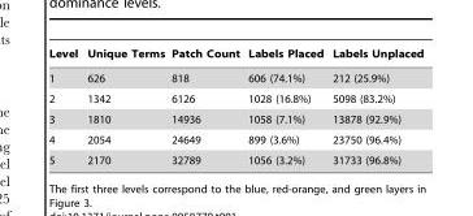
<table><thead><tr><td>Level</td><td>Unique Terms</td><td>Patch Count</td><td>Labels Placed</td><td>Labels Unplaced</td></tr></thead><tbody><tr><td>1</td><td>626</td><td>818</td><td>606 (74.1%)</td><td>212 (25.9%)</td></tr><tr><td>2</td><td>1342</td><td>6126</td><td>1028 (16.8%)</td><td>5098 (83.2%)</td></tr><tr><td>3</td><td>1810</td><td>14936</td><td>1058 (7.1%)</td><td>13878 (92.9%)</td></tr><tr><td>4</td><td>2054</td><td>24649</td><td>899 (3.6%)</td><td>23750 (96.4%)</td></tr><tr><td>5</td><td>2170</td><td>32789</td><td>1056 (3.2%)</td><td>31733 (96.8%)</td></tr></tbody></table>